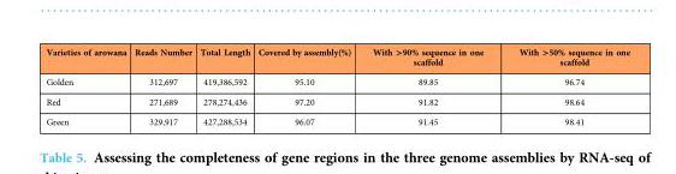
<table><thead><tr><td>Varieties of arowana</td><td>Reads Number</td><td>Total Length</td><td>Covered by assembly(%)</td><td>With &gt;90% sequence in one scaffold</td><td>With &gt;50% sequence in one scaffold</td></tr></thead><tbody><tr><td>Golden</td><td>312,697</td><td>419,386,592</td><td>95.10</td><td>89.85</td><td>96.74</td></tr><tr><td>Red</td><td>271,689</td><td>278,274,436</td><td>97.20</td><td>91.82</td><td>98.64</td></tr><tr><td>Green</td><td>329,917</td><td>427,288,534</td><td>96.07</td><td>91.45</td><td>98.41</td></tr></tbody></table>